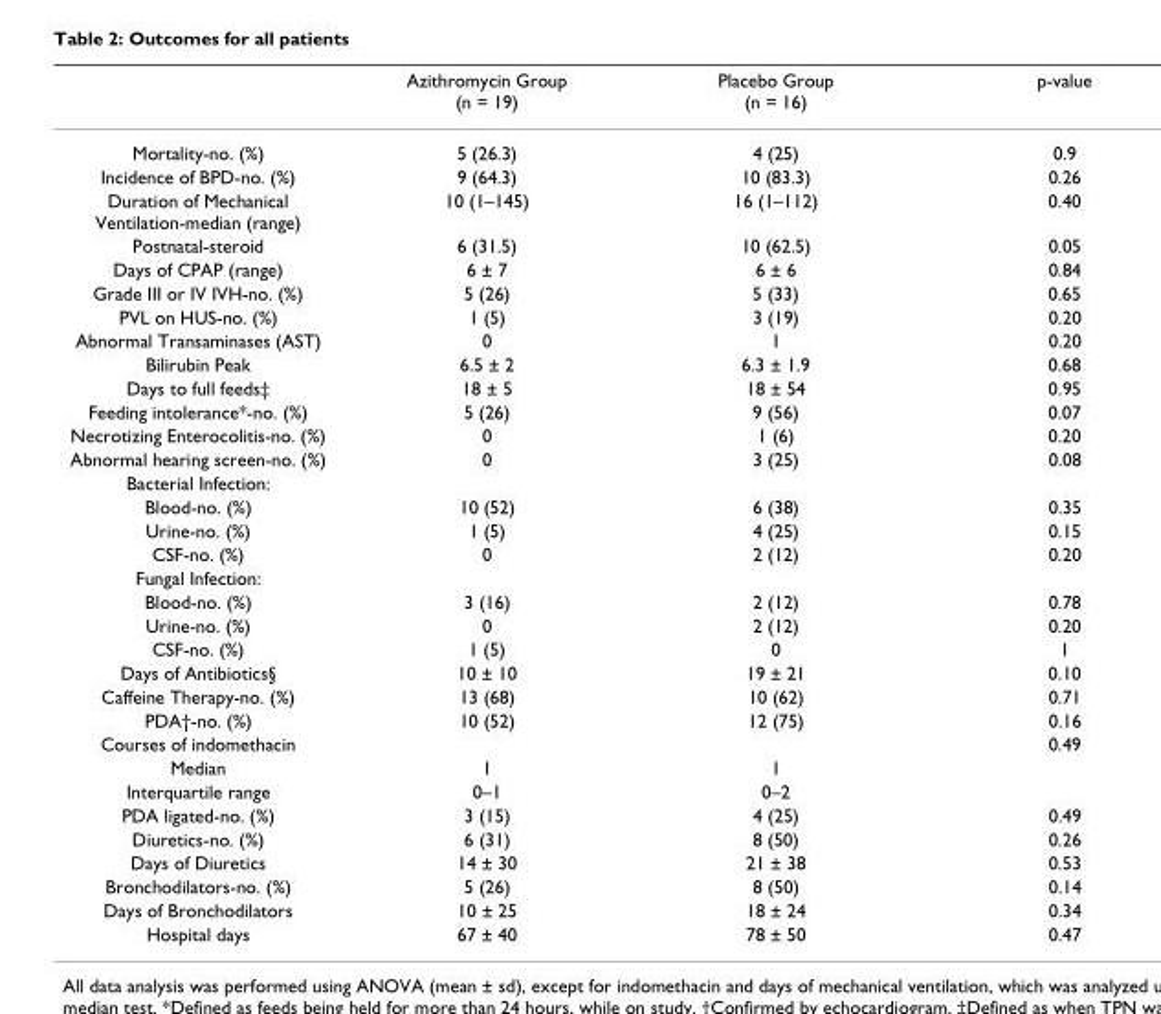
<table><thead><tr><td></td><td>Azithromycin Group (n = 19)</td><td>Placebo Group (n = 16)</td><td>p-value</td></tr></thead><tbody><tr><td>Mortality-no. (%)</td><td>5 (26.3)</td><td>4 (25)</td><td>0.9</td></tr><tr><td>Incidence of BPD-no. (%)</td><td>9 (64.3)</td><td>10 (83.3)</td><td>0.26</td></tr><tr><td>Duration of Mechanical Ventilation-median (range)</td><td>10 (1–145)</td><td>16 (1–112)</td><td>0.40</td></tr><tr><td>Postnatal-steroid</td><td>6 (31.5)</td><td>10 (62.5)</td><td>0.05</td></tr><tr><td>Days of CPAP (range)</td><td>6 ± 7</td><td>6 ± 6</td><td>0.84</td></tr><tr><td>Grade III or IV IVH-no. (%)</td><td>5 (26)</td><td>5 (33)</td><td>0.65</td></tr><tr><td>PVL on HUS-no. (%)</td><td>1 (5)</td><td>3 (19)</td><td>0.20</td></tr><tr><td>Abnormal Transaminases (AST)</td><td>0</td><td>1</td><td>0.20</td></tr><tr><td>Bilirubin Peak</td><td>6.5 ± 2</td><td>6.3 ± 1.9</td><td>0.68</td></tr><tr><td>Days to full feeds‡</td><td>18 ± 5</td><td>18 ± 54</td><td>0.95</td></tr><tr><td>Feeding intolerance*-no. (%)</td><td>5 (26)</td><td>9 (56)</td><td>0.07</td></tr><tr><td>Necrotizing Enterocolitis-no. (%)</td><td>0</td><td>1 (6)</td><td>0.20</td></tr><tr><td>Abnormal hearing screen-no. (%)</td><td>0</td><td>3 (25)</td><td>0.08</td></tr><tr><td colspan="4">Bacterial Infection:</td></tr><tr><td>Blood-no. (%)</td><td>10 (52)</td><td>6 (38)</td><td>0.35</td></tr><tr><td>Urine-no. (%)</td><td>1 (5)</td><td>4 (25)</td><td>0.15</td></tr><tr><td>CSF-no. (%)</td><td>0</td><td>2 (12)</td><td>0.20</td></tr><tr><td colspan="4">Fungal Infection:</td></tr><tr><td>Blood-no. (%)</td><td>3 (16)</td><td>2 (12)</td><td>0.78</td></tr><tr><td>Urine-no. (%)</td><td>0</td><td>2 (12)</td><td>0.20</td></tr><tr><td>CSF-no. (%)</td><td>1 (5)</td><td>0</td><td>1</td></tr><tr><td>Days of Antibiotics§</td><td>10 ± 10</td><td>19 ± 21</td><td>0.10</td></tr><tr><td>Caffeine Therapy-no. (%)</td><td>13 (68)</td><td>10 (62)</td><td>0.71</td></tr><tr><td>PDA†-no. (%)</td><td>10 (52)</td><td>12 (75)</td><td>0.16</td></tr><tr><td>Courses of indomethacin</td><td></td><td></td><td>0.49</td></tr><tr><td>Median</td><td>1</td><td>1</td><td></td></tr><tr><td>Interquartile range</td><td>0–1</td><td>0–2</td><td></td></tr><tr><td>PDA ligated-no. (%)</td><td>3 (15)</td><td>4 (25)</td><td>0.49</td></tr><tr><td>Diuretics-no. (%)</td><td>6 (31)</td><td>8 (50)</td><td>0.26</td></tr><tr><td>Days of Diuretics</td><td>14 ± 30</td><td>21 ± 38</td><td>0.53</td></tr><tr><td>Bronchodilators-no. (%)</td><td>5 (26)</td><td>8 (50)</td><td>0.14</td></tr><tr><td>Days of Bronchodilators</td><td>10 ± 25</td><td>18 ± 24</td><td>0.34</td></tr><tr><td>Hospital days</td><td>67 ± 40</td><td>78 ± 50</td><td>0.47</td></tr></tbody></table>